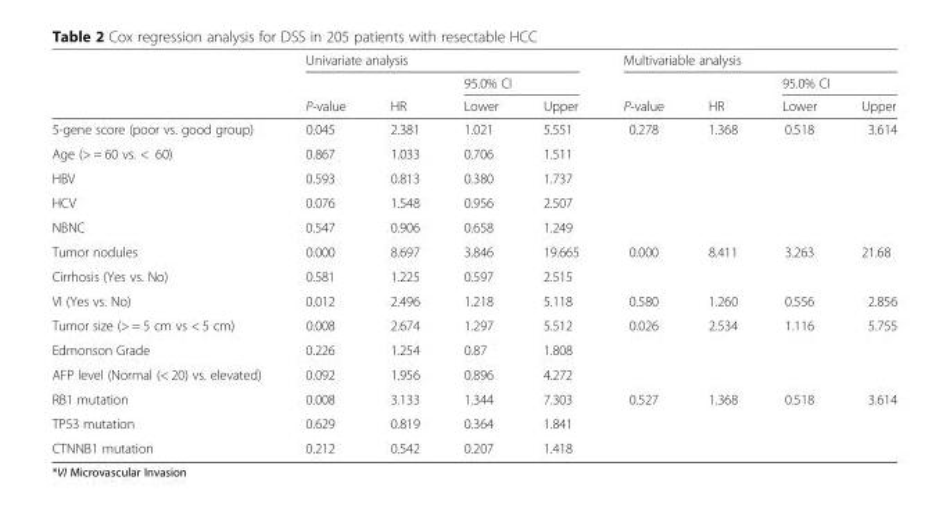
<table><thead><tr><td rowspan="3"></td><td colspan="4">Univariate analysis</td><td colspan="4">Multivariable analysis</td></tr><tr><td rowspan="2">P-value</td><td rowspan="2">HR</td><td colspan="2">95.0% CI</td><td rowspan="2">P-value</td><td rowspan="2">HR</td><td colspan="2">95.0% CI</td></tr><tr><td>Lower</td><td>Upper</td><td>Lower</td><td>Upper</td></tr></thead><tbody><tr><td>5-gene score (poor vs. good group)</td><td>0.045</td><td>2.381</td><td>1.021</td><td>5.551</td><td>0.278</td><td>1.368</td><td>0.518</td><td>3.614</td></tr><tr><td>Age (&gt; = 60 vs. &lt; 60)</td><td>0.867</td><td>1.033</td><td>0.706</td><td>1.511</td><td></td><td></td><td></td><td></td></tr><tr><td>HBV</td><td>0.593</td><td>0.813</td><td>0.380</td><td>1.737</td><td></td><td></td><td></td><td></td></tr><tr><td>HCV</td><td>0.076</td><td>1.548</td><td>0.956</td><td>2.507</td><td></td><td></td><td></td><td></td></tr><tr><td>NBNC</td><td>0.547</td><td>0.906</td><td>0.658</td><td>1.249</td><td></td><td></td><td></td><td></td></tr><tr><td>Tumor nodules</td><td>0.000</td><td>8.697</td><td>3.846</td><td>19.665</td><td>0.000</td><td>8.411</td><td>3.263</td><td>21.68</td></tr><tr><td>Cirrhosis (Yes vs. No)</td><td>0.581</td><td>1.225</td><td>0.597</td><td>2.515</td><td></td><td></td><td></td><td></td></tr><tr><td>VI (Yes vs. No)</td><td>0.012</td><td>2.496</td><td>1.218</td><td>5.118</td><td>0.580</td><td>1.260</td><td>0.556</td><td>2.856</td></tr><tr><td>Tumor size (&gt; = 5 cm vs &lt; 5 cm)</td><td>0.008</td><td>2.674</td><td>1.297</td><td>5.512</td><td>0.026</td><td>2.534</td><td>1.116</td><td>5.755</td></tr><tr><td>Edmonson Grade</td><td>0.226</td><td>1.254</td><td>0.87</td><td>1.808</td><td></td><td></td><td></td><td></td></tr><tr><td>AFP level (Normal (&lt; 20) vs. elevated)</td><td>0.092</td><td>1.956</td><td>0.896</td><td>4.272</td><td></td><td></td><td></td><td></td></tr><tr><td>RB1 mutation</td><td>0.008</td><td>3.133</td><td>1.344</td><td>7.303</td><td>0.527</td><td>1.368</td><td>0.518</td><td>3.614</td></tr><tr><td>TP53 mutation</td><td>0.629</td><td>0.819</td><td>0.364</td><td>1.841</td><td></td><td></td><td></td><td></td></tr><tr><td>CTNNB1 mutation</td><td>0.212</td><td>0.542</td><td>0.207</td><td>1.418</td><td></td><td></td><td></td><td></td></tr></tbody></table>